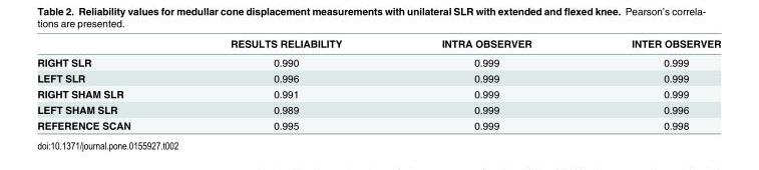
<table><thead><tr><td></td><td>RESULTS RELIABILITY</td><td>INTRA OBSERVER</td><td>INTER OBSERVER</td></tr></thead><tbody><tr><td>RIGHT SLR</td><td>0.990</td><td>0.999</td><td>0.999</td></tr><tr><td>LEFT SLR</td><td>0.996</td><td>0.999</td><td>0.999</td></tr><tr><td>RIGHT SHAM SLR</td><td>0.991</td><td>0.999</td><td>0.999</td></tr><tr><td>LEFT SHAM SLR</td><td>0.989</td><td>0.999</td><td>0.996</td></tr><tr><td>REFERENCE SCAN</td><td>0.995</td><td>0.999</td><td>0.998</td></tr></tbody></table>